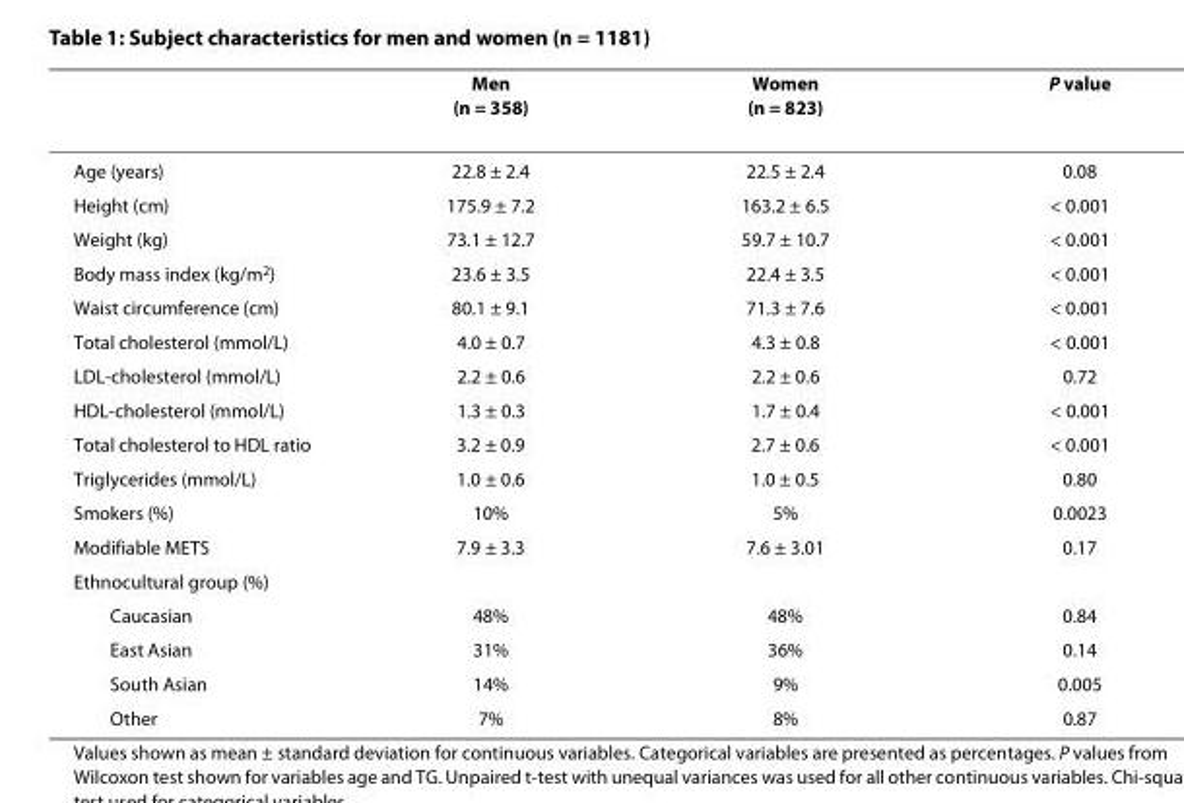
<table><thead><tr><td></td><td>Men (n = 358)</td><td>Women (n = 823)</td><td>P value</td></tr></thead><tbody><tr><td>Age (years)</td><td>22.8 ± 2.4</td><td>22.5 ± 2.4</td><td>0.08</td></tr><tr><td>Height (cm)</td><td>175.9 ± 7.2</td><td>163.2 ± 6.5</td><td>&lt; 0.001</td></tr><tr><td>Weight (kg)</td><td>73.1 ± 12.7</td><td>59.7 ± 10.7</td><td>&lt; 0.001</td></tr><tr><td>Body mass index (kg/m<sup>2</sup>)</td><td>23.6 ± 3.5</td><td>22.4 ± 3.5</td><td>&lt; 0.001</td></tr><tr><td>Waist circumference (cm)</td><td>80.1 ± 9.1</td><td>71.3 ± 7.6</td><td>&lt; 0.001</td></tr><tr><td>Total cholesterol (mmol/L)</td><td>4.0 ± 0.7</td><td>4.3 ± 0.8</td><td>&lt; 0.001</td></tr><tr><td>LDL-cholesterol (mmol/L)</td><td>2.2 ± 0.6</td><td>2.2 ± 0.6</td><td>0.72</td></tr><tr><td>HDL-cholesterol (mmol/L)</td><td>1.3 ± 0.3</td><td>1.7 ± 0.4</td><td>&lt; 0.001</td></tr><tr><td>Total cholesterol to HDL ratio</td><td>3.2 ± 0.9</td><td>2.7 ± 0.6</td><td>&lt; 0.001</td></tr><tr><td>Triglycerides (mmol/L)</td><td>1.0 ± 0.6</td><td>1.0 ± 0.5</td><td>0.80</td></tr><tr><td>Smokers (%)</td><td>10%</td><td>5%</td><td>0.0023</td></tr><tr><td>Modifiable METS</td><td>7.9 ± 3.3</td><td>7.6 ± 3.01</td><td>0.17</td></tr><tr><td colspan="4">Ethnocultural group (%)</td></tr><tr><td>Caucasian</td><td>48%</td><td>48%</td><td>0.84</td></tr><tr><td>East Asian</td><td>31%</td><td>36%</td><td>0.14</td></tr><tr><td>South Asian</td><td>14%</td><td>9%</td><td>0.005</td></tr><tr><td>Other</td><td>7%</td><td>8%</td><td>0.87</td></tr></tbody></table>